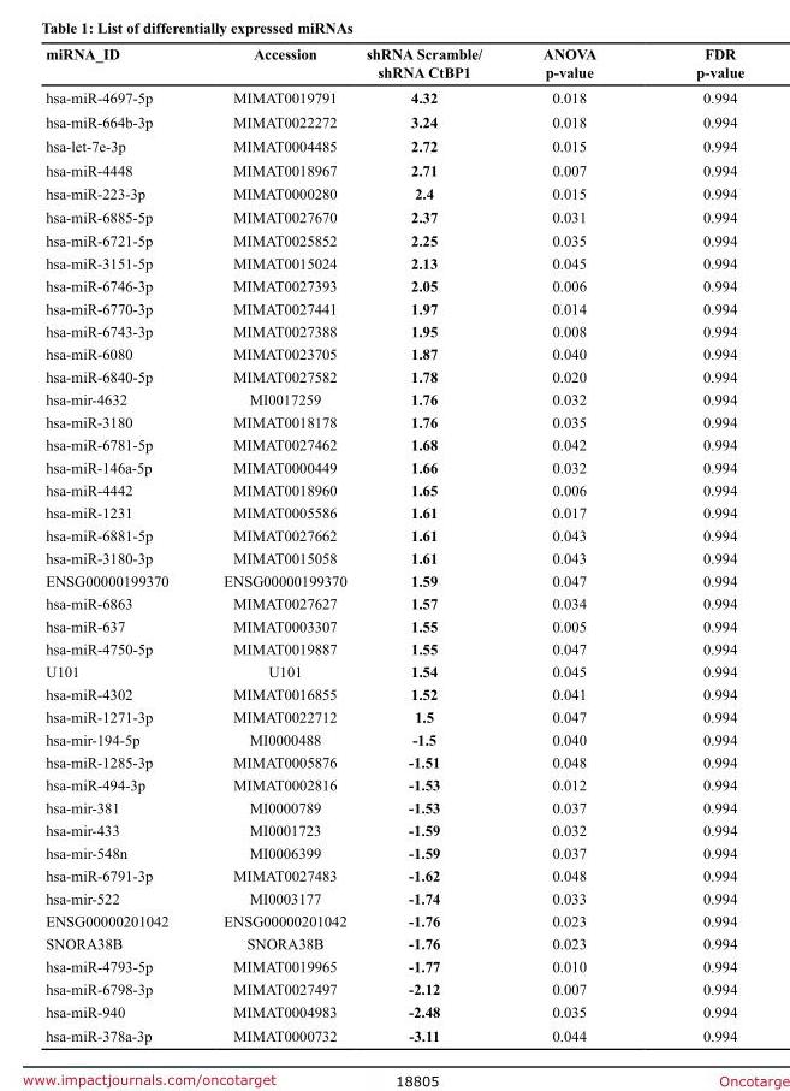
<table><thead><tr><td>miRNA_ID</td><td>Accession</td><td>shRNA Scramble/ shRNA CtBP1</td><td>ANOVA p-value</td><td>FDR p-value</td></tr></thead><tbody><tr><td>hsa-miR-4697-5p</td><td>MIMAT0019791</td><td>4.32</td><td>0.018</td><td>0.994</td></tr><tr><td>hsa-miR-664b-3p</td><td>MIMAT0022272</td><td>3.24</td><td>0.018</td><td>0.994</td></tr><tr><td>hsa-let-7e-3p</td><td>MIMAT0004485</td><td>2.72</td><td>0.015</td><td>0.994</td></tr><tr><td>hsa-miR-4448</td><td>MIMAT0018967</td><td>2.71</td><td>0.007</td><td>0.994</td></tr><tr><td>hsa-miR-223-3p</td><td>MIMAT0000280</td><td>2.4</td><td>0.015</td><td>0.994</td></tr><tr><td>hsa-miR-6885-5p</td><td>MIMAT0027670</td><td>2.37</td><td>0.031</td><td>0.994</td></tr><tr><td>hsa-miR-6721-5p</td><td>MIMAT0025852</td><td>2.25</td><td>0.035</td><td>0.994</td></tr><tr><td>hsa-miR-3151-5p</td><td>MIMAT0015024</td><td>2.13</td><td>0.045</td><td>0.994</td></tr><tr><td>hsa-miR-6746-3p</td><td>MIMAT0027393</td><td>2.05</td><td>0.006</td><td>0.994</td></tr><tr><td>hsa-miR-6770-3p</td><td>MIMAT0027441</td><td>1.97</td><td>0.014</td><td>0.994</td></tr><tr><td>hsa-miR-6743-3p</td><td>MIMAT0027388</td><td>1.95</td><td>0.008</td><td>0.994</td></tr><tr><td>hsa-miR-6080</td><td>MIMAT0023705</td><td>1.87</td><td>0.040</td><td>0.994</td></tr><tr><td>hsa-miR-6840-5p</td><td>MIMAT0027582</td><td>1.78</td><td>0.020</td><td>0.994</td></tr><tr><td>hsa-mir-4632</td><td>MI0017259</td><td>1.76</td><td>0.032</td><td>0.994</td></tr><tr><td>hsa-miR-3180</td><td>MIMAT0018178</td><td>1.76</td><td>0.035</td><td>0.994</td></tr><tr><td>hsa-miR-6781-5p</td><td>MIMAT0027462</td><td>1.68</td><td>0.042</td><td>0.994</td></tr><tr><td>hsa-miR-146a-5p</td><td>MIMAT0000449</td><td>1.66</td><td>0.032</td><td>0.994</td></tr><tr><td>hsa-miR-4442</td><td>MIMAT0018960</td><td>1.65</td><td>0.006</td><td>0.994</td></tr><tr><td>hsa-miR-1231</td><td>MIMAT0005586</td><td>1.61</td><td>0.017</td><td>0.994</td></tr><tr><td>hsa-miR-6881-5p</td><td>MIMAT0027662</td><td>1.61</td><td>0.043</td><td>0.994</td></tr><tr><td>hsa-miR-3180-3p</td><td>MIMAT0015058</td><td>1.61</td><td>0.043</td><td>0.994</td></tr><tr><td>ENSG00000199370</td><td>ENSG00000199370</td><td>1.59</td><td>0.047</td><td>0.994</td></tr><tr><td>hsa-miR-6863</td><td>MIMAT0027627</td><td>1.57</td><td>0.034</td><td>0.994</td></tr><tr><td>hsa-miR-637</td><td>MIMAT0003307</td><td>1.55</td><td>0.005</td><td>0.994</td></tr><tr><td>hsa-miR-4750-5p</td><td>MIMAT0019887</td><td>1.55</td><td>0.047</td><td>0.994</td></tr><tr><td>U101</td><td>U101</td><td>1.54</td><td>0.045</td><td>0.994</td></tr><tr><td>hsa-miR-4302</td><td>MIMAT0016855</td><td>1.52</td><td>0.041</td><td>0.994</td></tr><tr><td>hsa-miR-1271-3p</td><td>MIMAT0022712</td><td>1.5</td><td>0.047</td><td>0.994</td></tr><tr><td>hsa-mir-194-5p</td><td>MI0000488</td><td>-1.5</td><td>0.040</td><td>0.994</td></tr><tr><td>hsa-miR-1285-3p</td><td>MIMAT0005876</td><td>-1.51</td><td>0.048</td><td>0.994</td></tr><tr><td>hsa-miR-494-3p</td><td>MIMAT0002816</td><td>-1.53</td><td>0.012</td><td>0.994</td></tr><tr><td>hsa-mir-381</td><td>MI0000789</td><td>-1.53</td><td>0.037</td><td>0.994</td></tr><tr><td>hsa-mir-433</td><td>MI0001723</td><td>-1.59</td><td>0.032</td><td>0.994</td></tr><tr><td>hsa-mir-548n</td><td>MI0006399</td><td>-1.59</td><td>0.037</td><td>0.994</td></tr><tr><td>hsa-miR-6791-3p</td><td>MIMAT0027483</td><td>-1.62</td><td>0.048</td><td>0.994</td></tr><tr><td>hsa-mir-522</td><td>MI0003177</td><td>-1.74</td><td>0.033</td><td>0.994</td></tr><tr><td>ENSG00000201042</td><td>ENSG00000201042</td><td>-1.76</td><td>0.023</td><td>0.994</td></tr><tr><td>SNORA38B</td><td>SNORA38B</td><td>-1.76</td><td>0.023</td><td>0.994</td></tr><tr><td>hsa-miR-4793-5p</td><td>MIMAT0019965</td><td>-1.77</td><td>0.010</td><td>0.994</td></tr><tr><td>hsa-miR-6798-3p</td><td>MIMAT0027497</td><td>-2.12</td><td>0.007</td><td>0.994</td></tr><tr><td>hsa-miR-940</td><td>MIMAT0004983</td><td>-2.48</td><td>0.035</td><td>0.994</td></tr><tr><td>hsa-miR-378a-3p</td><td>MIMAT0000732</td><td>-3.11</td><td>0.044</td><td>0.994</td></tr></tbody></table>